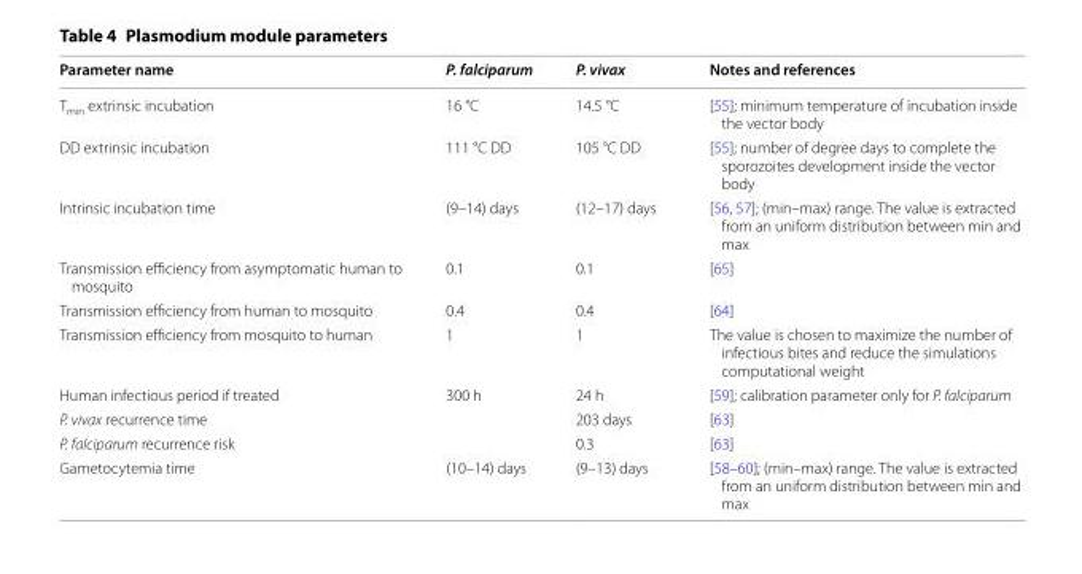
<table><thead><tr><td>Parameter name</td><td>P. falciparum</td><td>P. vivax</td><td>Notes and references</td></tr></thead><tbody><tr><td>T<sub>min</sub> extrinsic incubation</td><td>16 °C</td><td>14.5 °C</td><td>[55]; minimum temperature of incubation inside the vector body</td></tr><tr><td>DD extrinsic incubation</td><td>111 °C DD</td><td>105 °C DD</td><td>[55]; number of degree days to complete the sporozoites development inside the vector body</td></tr><tr><td>Intrinsic incubation time</td><td>(9–14) days</td><td>(12–17) days</td><td>[56, 57]; (min–max) range. The value is extracted from an uniform distribution between min and max</td></tr><tr><td>Transmission efficiency from asymptomatic human to mosquito</td><td>0.1</td><td>0.1</td><td>[65]</td></tr><tr><td>Transmission efficiency from human to mosquito</td><td>0.4</td><td>0.4</td><td>[64]</td></tr><tr><td>Transmission efficiency from mosquito to human</td><td>1</td><td>1</td><td>The value is chosen to maximize the number of infectious bites and reduce the simulations computational weight</td></tr><tr><td>Human infectious period if treated</td><td>300 h</td><td>24 h</td><td>[59]; calibration parameter only for P. falciparum</td></tr><tr><td>P. vivax recurrence time</td><td></td><td>203 days</td><td>[63]</td></tr><tr><td>P. falciparum recurrence risk</td><td></td><td>0.3</td><td>[63]</td></tr><tr><td>Gametocytemia time</td><td>(10–14) days</td><td>(9–13) days</td><td>[58–60]; (min–max) range. The value is extracted from an uniform distribution between min and max</td></tr></tbody></table>